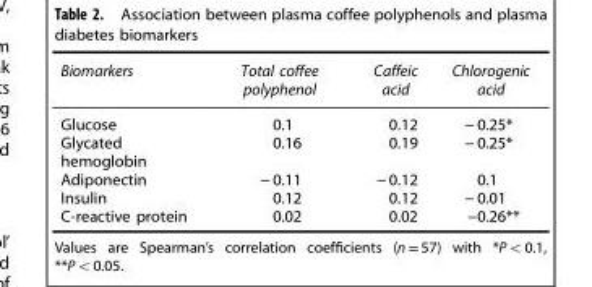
<table><thead><tr><td>Biomarkers</td><td>Total coffee polyphenol</td><td>Caffeic acid</td><td>Chlorogenic acid</td></tr></thead><tbody><tr><td>Glucose</td><td>0.1</td><td>0.12</td><td>− 0.25*</td></tr><tr><td>Glycated hemoglobin</td><td>0.16</td><td>0.19</td><td>− 0.25*</td></tr><tr><td>Adiponectin</td><td>− 0.11</td><td>− 0.12</td><td>0.1</td></tr><tr><td>Insulin</td><td>0.12</td><td>0.12</td><td>− 0.01</td></tr><tr><td>C-reactive protein</td><td>0.02</td><td>0.02</td><td>−0.26**</td></tr></tbody></table>